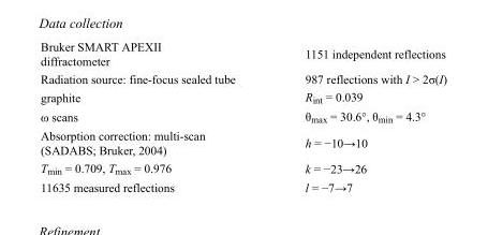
<table><tbody><tr><td>Bruker SMART APEXII diffractometer</td><td>1151 independent reflections</td></tr><tr><td>Radiation source: fine-focus sealed tube</td><td>987 reflections with I &gt; 2σ(I)</td></tr><tr><td>graphite</td><td>R<sub>int</sub> = 0.039</td></tr><tr><td>ω scans</td><td>θ<sub>max</sub> = 30.6°, θ<sub>min</sub> = 4.3°</td></tr><tr><td>Absorption correction: multi-scan (SADABS; Bruker, 2004)</td><td>h = −10→10</td></tr><tr><td>T<sub>min</sub> = 0.709, T<sub>max</sub> = 0.976</td><td>k = −23→26</td></tr><tr><td>11635 measured reflections</td><td>l = −7→7</td></tr></tbody></table>